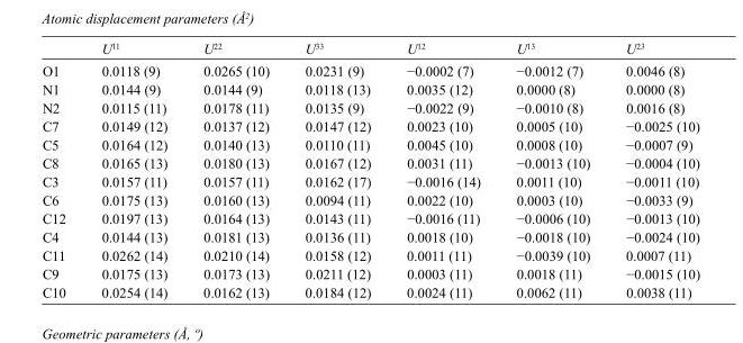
<table><thead><tr><td></td><td>U<sup>11</sup></td><td>U<sup>22</sup></td><td>U<sup>33</sup></td><td>U<sup>12</sup></td><td>U<sup>13</sup></td><td>U<sup>23</sup></td></tr></thead><tbody><tr><td>O1</td><td>0.0118 (9)</td><td>0.0265 (10)</td><td>0.0231 (9)</td><td>−0.0002 (7)</td><td>−0.0012 (7)</td><td>0.0046 (8)</td></tr><tr><td>N1</td><td>0.0144 (9)</td><td>0.0144 (9)</td><td>0.0118 (13)</td><td>0.0035 (12)</td><td>0.0000 (8)</td><td>0.0000 (8)</td></tr><tr><td>N2</td><td>0.0115 (11)</td><td>0.0178 (11)</td><td>0.0135 (9)</td><td>−0.0022 (9)</td><td>−0.0010 (8)</td><td>0.0016 (8)</td></tr><tr><td>C7</td><td>0.0149 (12)</td><td>0.0137 (12)</td><td>0.0147 (12)</td><td>0.0023 (10)</td><td>0.0005 (10)</td><td>−0.0025 (10)</td></tr><tr><td>C5</td><td>0.0164 (12)</td><td>0.0140 (13)</td><td>0.0110 (11)</td><td>0.0045 (10)</td><td>0.0008 (10)</td><td>−0.0007 (9)</td></tr><tr><td>C8</td><td>0.0165 (13)</td><td>0.0180 (13)</td><td>0.0167 (12)</td><td>0.0031 (11)</td><td>−0.0013 (10)</td><td>−0.0004 (10)</td></tr><tr><td>C3</td><td>0.0157 (11)</td><td>0.0157 (11)</td><td>0.0162 (17)</td><td>−0.0016 (14)</td><td>0.0011 (10)</td><td>−0.0011 (10)</td></tr><tr><td>C6</td><td>0.0175 (13)</td><td>0.0160 (13)</td><td>0.0094 (11)</td><td>0.0022 (10)</td><td>0.0003 (10)</td><td>−0.0033 (9)</td></tr><tr><td>C12</td><td>0.0197 (13)</td><td>0.0164 (13)</td><td>0.0143 (11)</td><td>−0.0016 (11)</td><td>−0.0006 (10)</td><td>−0.0013 (10)</td></tr><tr><td>C4</td><td>0.0144 (13)</td><td>0.0181 (13)</td><td>0.0136 (11)</td><td>0.0018 (10)</td><td>−0.0018 (10)</td><td>−0.0024 (10)</td></tr><tr><td>C11</td><td>0.0262 (14)</td><td>0.0210 (14)</td><td>0.0158 (12)</td><td>0.0011 (11)</td><td>−0.0039 (10)</td><td>0.0007 (11)</td></tr><tr><td>C9</td><td>0.0175 (13)</td><td>0.0173 (13)</td><td>0.0211 (12)</td><td>0.0003 (11)</td><td>0.0018 (11)</td><td>−0.0015 (10)</td></tr><tr><td>C10</td><td>0.0254 (14)</td><td>0.0162 (13)</td><td>0.0184 (12)</td><td>0.0024 (11)</td><td>0.0062 (11)</td><td>0.0038 (11)</td></tr></tbody></table>